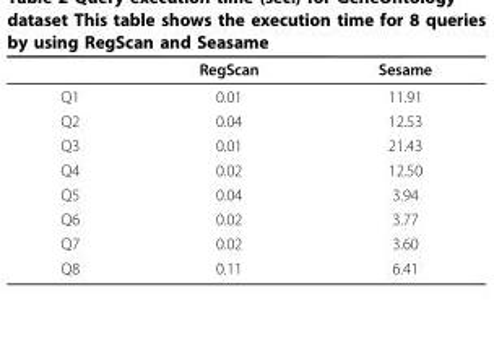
<table><thead><tr><td></td><td>RegScan</td><td>Sesame</td></tr></thead><tbody><tr><td>Q1</td><td>0.01</td><td>11.91</td></tr><tr><td>Q2</td><td>0.04</td><td>12.53</td></tr><tr><td>Q3</td><td>0.01</td><td>21.43</td></tr><tr><td>Q4</td><td>0.02</td><td>12.50</td></tr><tr><td>Q5</td><td>0.04</td><td>3.94</td></tr><tr><td>Q6</td><td>0.02</td><td>3.77</td></tr><tr><td>Q7</td><td>0.02</td><td>3.60</td></tr><tr><td>Q8</td><td>0.11</td><td>6.41</td></tr></tbody></table>